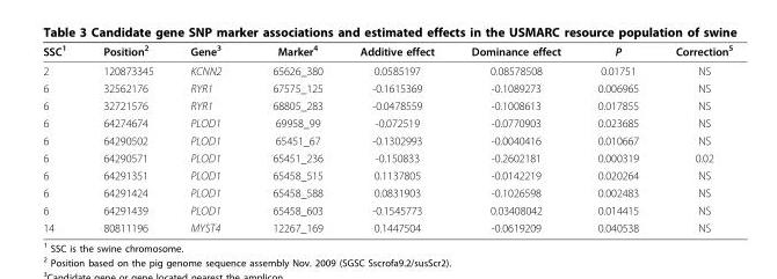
<table><thead><tr><td>SSC<sup>1</sup></td><td>Position<sup>2</sup></td><td>Gene<sup>3</sup></td><td>Marker<sup>4</sup></td><td>Additive effect</td><td>Dominance effect</td><td>P</td><td>Correction<sup>5</sup></td></tr></thead><tbody><tr><td>2</td><td>120873345</td><td>KCNN2</td><td>65626_380</td><td>0.0585197</td><td>0.08578508</td><td>0.01751</td><td>NS</td></tr><tr><td>6</td><td>32562176</td><td>RYR1</td><td>67575_125</td><td>-0.1615369</td><td>-0.1089273</td><td>0.006965</td><td>NS</td></tr><tr><td>6</td><td>32721576</td><td>RYR1</td><td>68805_283</td><td>-0.0478559</td><td>-0.1008613</td><td>0.017855</td><td>NS</td></tr><tr><td>6</td><td>64274674</td><td>PLOD1</td><td>69958_99</td><td>-0.072519</td><td>-0.0770903</td><td>0.023685</td><td>NS</td></tr><tr><td>6</td><td>64290502</td><td>PLOD1</td><td>65451_67</td><td>-0.1302993</td><td>-0.0040416</td><td>0.010667</td><td>NS</td></tr><tr><td>6</td><td>64290571</td><td>PLOD1</td><td>65451_236</td><td>-0.150833</td><td>-0.2602181</td><td>0.000319</td><td>0.02</td></tr><tr><td>6</td><td>64291351</td><td>PLOD1</td><td>65458_515</td><td>0.1137805</td><td>-0.0142219</td><td>0.020264</td><td>NS</td></tr><tr><td>6</td><td>64291424</td><td>PLOD1</td><td>65458_588</td><td>0.0831903</td><td>-0.1026598</td><td>0.002483</td><td>NS</td></tr><tr><td>6</td><td>64291439</td><td>PLOD1</td><td>65458_603</td><td>-0.1545773</td><td>0.03408042</td><td>0.014415</td><td>NS</td></tr><tr><td>14</td><td>80811196</td><td>MYST4</td><td>12267_169</td><td>0.1447504</td><td>-0.0619209</td><td>0.040538</td><td>NS</td></tr></tbody></table>